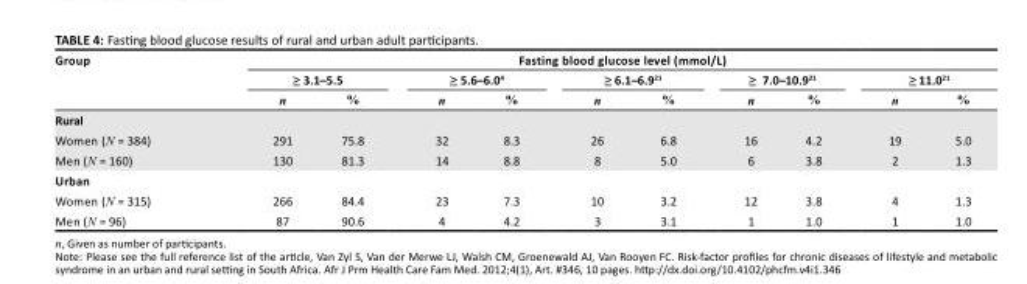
<table><thead><tr><td rowspan="3">Group</td><td colspan="10">Fasting blood glucose level (mmol/L)</td></tr><tr><td colspan="2">≥ 3.1–5.5</td><td colspan="2">≥ 5.6–6.0<sup>4</sup></td><td colspan="2">≥ 6.1–6.9<sup>21</sup></td><td colspan="2">≥ 7.0–10.9<sup>21</sup></td><td colspan="2">≥ 11.0<sup>21</sup></td></tr><tr><td>n</td><td>%</td><td>n</td><td>%</td><td>n</td><td>%</td><td>n</td><td>%</td><td>n</td><td>%</td></tr></thead><tbody><tr><td colspan="11">Rural</td></tr><tr><td>Women (N = 384)</td><td>291</td><td>75.8</td><td>32</td><td>8.3</td><td>26</td><td>6.8</td><td>16</td><td>4.2</td><td>19</td><td>5.0</td></tr><tr><td>Men (N = 160)</td><td>130</td><td>81.3</td><td>14</td><td>8.8</td><td>8</td><td>5.0</td><td>6</td><td>3.8</td><td>2</td><td>1.3</td></tr><tr><td colspan="11">Urban</td></tr><tr><td>Women (N = 315)</td><td>266</td><td>84.4</td><td>23</td><td>7.3</td><td>10</td><td>3.2</td><td>12</td><td>3.8</td><td>4</td><td>1.3</td></tr><tr><td>Men (N = 96)</td><td>87</td><td>90.6</td><td>4</td><td>4.2</td><td>3</td><td>3.1</td><td>1</td><td>1.0</td><td>1</td><td>1.0</td></tr></tbody></table>